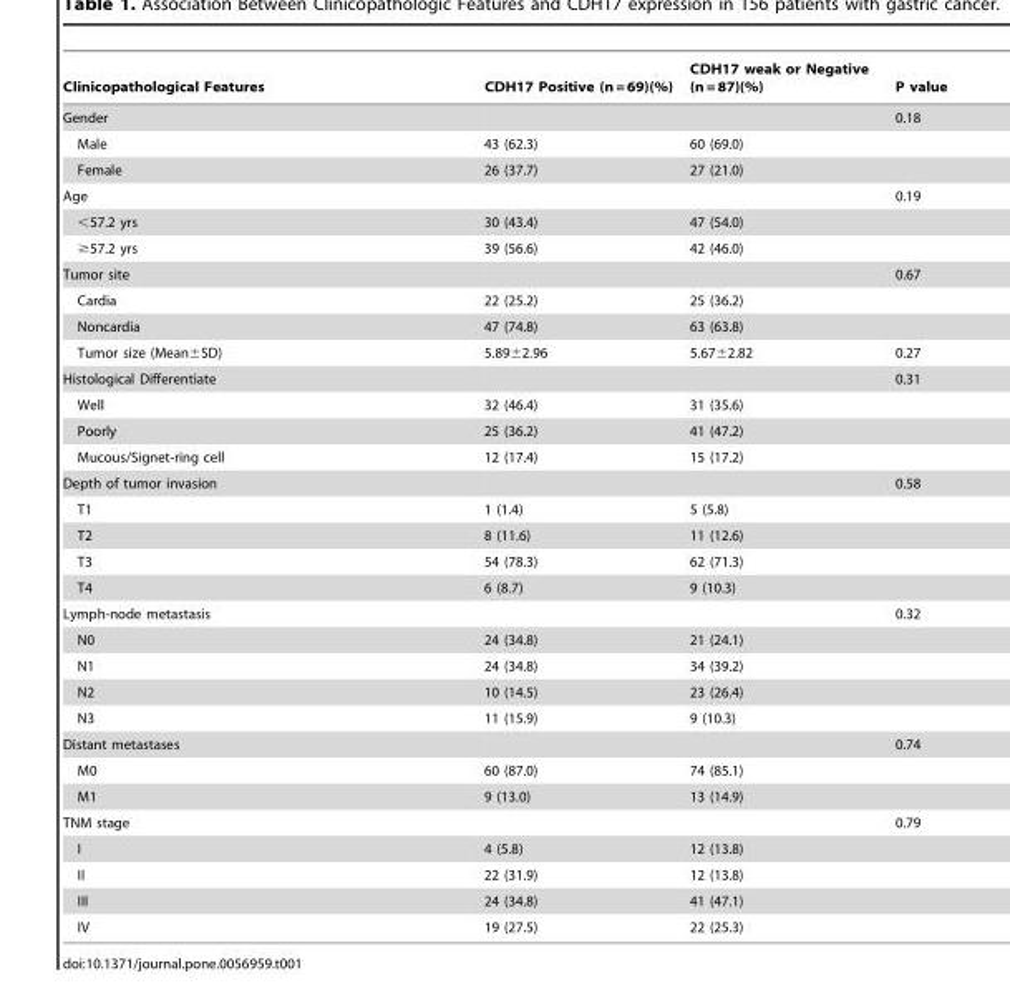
<table><thead><tr><td>Clinicopathological Features</td><td>CDH17 Positive (n = 69)(%)</td><td>CDH17 weak or Negative (n = 87)(%)</td><td>P value</td></tr></thead><tbody><tr><td>Gender</td><td></td><td></td><td>0.18</td></tr><tr><td>Male</td><td>43 (62.3)</td><td>60 (69.0)</td><td></td></tr><tr><td>Female</td><td>26 (37.7)</td><td>27 (21.0)</td><td></td></tr><tr><td>Age</td><td></td><td></td><td>0.19</td></tr><tr><td>&lt;57.2 yrs</td><td>30 (43.4)</td><td>47 (54.0)</td><td></td></tr><tr><td>≥57.2 yrs</td><td>39 (56.6)</td><td>42 (46.0)</td><td></td></tr><tr><td>Tumor site</td><td></td><td></td><td>0.67</td></tr><tr><td>Cardia</td><td>22 (25.2)</td><td>25 (36.2)</td><td></td></tr><tr><td>Noncardia</td><td>47 (74.8)</td><td>63 (63.8)</td><td></td></tr><tr><td>Tumor size (Mean±SD)</td><td>5.89±2.96</td><td>5.67±2.82</td><td>0.27</td></tr><tr><td>Histological Differentiate</td><td></td><td></td><td>0.31</td></tr><tr><td>Well</td><td>32 (46.4)</td><td>31 (35.6)</td><td></td></tr><tr><td>Poorly</td><td>25 (36.2)</td><td>41 (47.2)</td><td></td></tr><tr><td>Mucous/Signet-ring cell</td><td>12 (17.4)</td><td>15 (17.2)</td><td></td></tr><tr><td>Depth of tumor invasion</td><td></td><td></td><td>0.58</td></tr><tr><td>T1</td><td>1 (1.4)</td><td>5 (5.8)</td><td></td></tr><tr><td>T2</td><td>8 (11.6)</td><td>11 (12.6)</td><td></td></tr><tr><td>T3</td><td>54 (78.3)</td><td>62 (71.3)</td><td></td></tr><tr><td>T4</td><td>6 (8.7)</td><td>9 (10.3)</td><td></td></tr><tr><td>Lymph-node metastasis</td><td></td><td></td><td>0.32</td></tr><tr><td>N0</td><td>24 (34.8)</td><td>21 (24.1)</td><td></td></tr><tr><td>N1</td><td>24 (34.8)</td><td>34 (39.2)</td><td></td></tr><tr><td>N2</td><td>10 (14.5)</td><td>23 (26.4)</td><td></td></tr><tr><td>N3</td><td>11 (15.9)</td><td>9 (10.3)</td><td></td></tr><tr><td>Distant metastases</td><td></td><td></td><td>0.74</td></tr><tr><td>M0</td><td>60 (87.0)</td><td>74 (85.1)</td><td></td></tr><tr><td>M1</td><td>9 (13.0)</td><td>13 (14.9)</td><td></td></tr><tr><td>TNM stage</td><td></td><td></td><td>0.79</td></tr><tr><td>I</td><td>4 (5.8)</td><td>12 (13.8)</td><td></td></tr><tr><td>II</td><td>22 (31.9)</td><td>12 (13.8)</td><td></td></tr><tr><td>III</td><td>24 (34.8)</td><td>41 (47.1)</td><td></td></tr><tr><td>IV</td><td>19 (27.5)</td><td>22 (25.3)</td><td></td></tr></tbody></table>